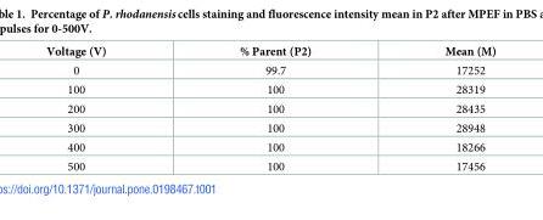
<table><thead><tr><td>Voltage (V)</td><td>% Parent (P2)</td><td>Mean (M)</td></tr></thead><tbody><tr><td>0</td><td>99.7</td><td>17252</td></tr><tr><td>100</td><td>100</td><td>28319</td></tr><tr><td>200</td><td>100</td><td>28435</td></tr><tr><td>300</td><td>100</td><td>28948</td></tr><tr><td>400</td><td>100</td><td>18266</td></tr><tr><td>500</td><td>100</td><td>17456</td></tr></tbody></table>